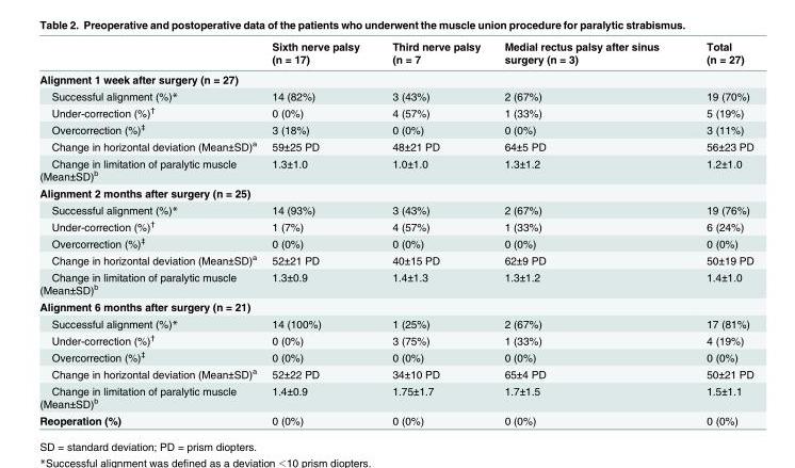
<table><thead><tr><td></td><td>Sixth nerve palsy (n = 17)</td><td>Third nerve palsy (n = 7</td><td>Medial rectus palsy after sinus surgery (n = 3)</td><td>Total (n = 27)</td></tr></thead><tbody><tr><td colspan="5">Alignment 1 week after surgery (n = 27)</td></tr><tr><td>Successful alignment (%)*</td><td>14 (82%)</td><td>3 (43%)</td><td>2 (67%)</td><td>19 (70%)</td></tr><tr><td>Under-correction (%)<sup>†</sup></td><td>0 (0%)</td><td>4 (57%)</td><td>1 (33%)</td><td>5 (19%)</td></tr><tr><td>Overcorrection (%)<sup>‡</sup></td><td>3 (18%)</td><td>0 (0%)</td><td>0 (0%)</td><td>3 (11%)</td></tr><tr><td>Change in horizontal deviation (Mean±SD)<sup>a</sup></td><td>59±25 PD</td><td>48±21 PD</td><td>64±5 PD</td><td>56±23 PD</td></tr><tr><td>Change in limitation of paralytic muscle (Mean±SD)<sup>b</sup></td><td>1.3±1.0</td><td>1.0±1.0</td><td>1.3±1.2</td><td>1.2±1.0</td></tr><tr><td colspan="5">Alignment 2 months after surgery (n = 25)</td></tr><tr><td>Successful alignment (%)*</td><td>14 (93%)</td><td>3 (43%)</td><td>2 (67%)</td><td>19 (76%)</td></tr><tr><td>Under-correction (%)<sup>†</sup></td><td>1 (7%)</td><td>4 (57%)</td><td>1 (33%)</td><td>6 (24%)</td></tr><tr><td>Overcorrection (%)<sup>‡</sup></td><td>0 (0%)</td><td>0 (0%)</td><td>0 (0%)</td><td>0 (0%)</td></tr><tr><td>Change in horizontal deviation (Mean±SD)<sup>a</sup></td><td>52±21 PD</td><td>40±15 PD</td><td>62±9 PD</td><td>50±19 PD</td></tr><tr><td>Change in limitation of paralytic muscle (Mean±SD)<sup>b</sup></td><td>1.3±0.9</td><td>1.4±1.3</td><td>1.3±1.2</td><td>1.4±1.0</td></tr><tr><td colspan="5">Alignment 6 months after surgery (n = 21)</td></tr><tr><td>Successful alignment (%)*</td><td>14 (100%)</td><td>1 (25%)</td><td>2 (67%)</td><td>17 (81%)</td></tr><tr><td>Under-correction (%)<sup>†</sup></td><td>0 (0%)</td><td>3 (75%)</td><td>1 (33%)</td><td>4 (19%)</td></tr><tr><td>Overcorrection (%)<sup>‡</sup></td><td>0 (0%)</td><td>0 (0%)</td><td>0 (0%)</td><td>0 (0%)</td></tr><tr><td>Change in horizontal deviation (Mean±SD)<sup>a</sup></td><td>52±22 PD</td><td>34±10 PD</td><td>65±4 PD</td><td>50±21 PD</td></tr><tr><td>Change in limitation of paralytic muscle (Mean±SD)<sup>b</sup></td><td>1.4±0.9</td><td>1.75±1.7</td><td>1.7±1.5</td><td>1.5±1.1</td></tr><tr><td>Reoperation (%)</td><td>0 (0%)</td><td>0 (0%)</td><td>0 (0%)</td><td>0 (0%)</td></tr></tbody></table>